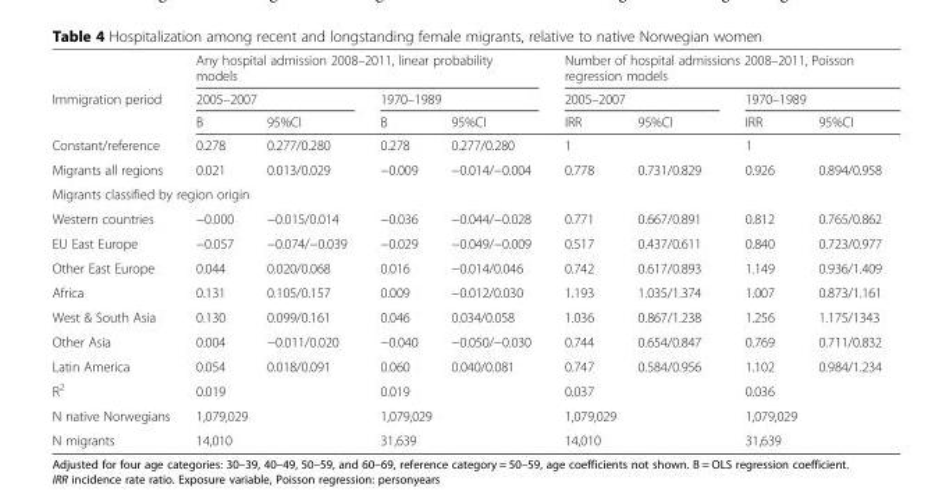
<table><thead><tr><td rowspan="3">Immigration period</td><td colspan="4">Any hospital admission 2008–2011, linear probability models</td><td colspan="4">Number of hospital admissions 2008–2011, Poisson regression models</td></tr><tr><td colspan="2">2005–2007</td><td colspan="2">1970–1989</td><td colspan="2">2005–2007</td><td colspan="2">1970–1989</td></tr><tr><td>B</td><td>95%CI</td><td>B</td><td>95%CI</td><td>IRR</td><td>95%CI</td><td>IRR</td><td>95%CI</td></tr></thead><tbody><tr><td>Constant/reference</td><td>0.278</td><td>0.277/0.280</td><td>0.278</td><td>0.277/0.280</td><td>1</td><td></td><td>1</td><td></td></tr><tr><td>Migrants all regions</td><td>0.021</td><td>0.013/0.029</td><td>−0.009</td><td>−0.014/−0.004</td><td>0.778</td><td>0.731/0.829</td><td>0.926</td><td>0.894/0.958</td></tr><tr><td colspan="9">Migrants classified by region origin</td></tr><tr><td>Western countries</td><td>−0.000</td><td>−0.015/0.014</td><td>−0.036</td><td>−0.044/−0.028</td><td>0.771</td><td>0.667/0.891</td><td>0.812</td><td>0.765/0.862</td></tr><tr><td>EU East Europe</td><td>−0.057</td><td>−0.074/−0.039</td><td>−0.029</td><td>−0.049/−0.009</td><td>0.517</td><td>0.437/0.611</td><td>0.840</td><td>0.723/0.977</td></tr><tr><td>Other East Europe</td><td>0.044</td><td>0.020/0.068</td><td>0.016</td><td>−0.014/0.046</td><td>0.742</td><td>0.617/0.893</td><td>1.149</td><td>0.936/1.409</td></tr><tr><td>Africa</td><td>0.131</td><td>0.105/0.157</td><td>0.009</td><td>−0.012/0.030</td><td>1.193</td><td>1.035/1.374</td><td>1.007</td><td>0.873/1.161</td></tr><tr><td>West &amp; South Asia</td><td>0.130</td><td>0.099/0.161</td><td>0.046</td><td>0.034/0.058</td><td>1.036</td><td>0.867/1.238</td><td>1.256</td><td>1.175/1343</td></tr><tr><td>Other Asia</td><td>0.004</td><td>−0.011/0.020</td><td>−0.040</td><td>−0.050/−0.030</td><td>0.744</td><td>0.654/0.847</td><td>0.769</td><td>0.711/0.832</td></tr><tr><td>Latin America</td><td>0.054</td><td>0.018/0.091</td><td>0.060</td><td>0.040/0.081</td><td>0.747</td><td>0.584/0.956</td><td>1.102</td><td>0.984/1.234</td></tr><tr><td>R<sup>2</sup></td><td colspan="2">0.019</td><td colspan="2">0.019</td><td colspan="2">0.037</td><td colspan="2">0.036</td></tr><tr><td>N native Norwegians</td><td colspan="2">1,079,029</td><td colspan="2">1,079,029</td><td colspan="2">1,079,029</td><td colspan="2">1,079,029</td></tr><tr><td>N migrants</td><td colspan="2">14,010</td><td colspan="2">31,639</td><td colspan="2">14,010</td><td colspan="2">31,639</td></tr></tbody></table>